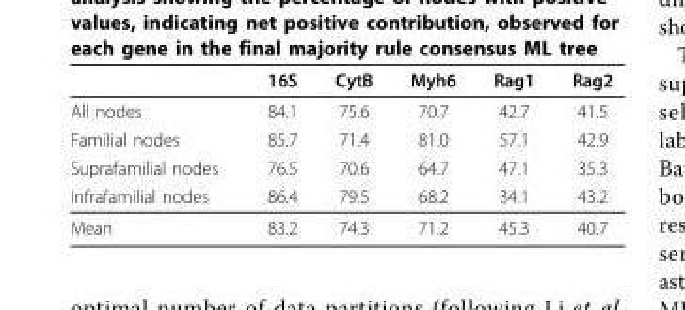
<table><thead><tr><td></td><td>16S</td><td>CytB</td><td>Myh6</td><td>Rag1</td><td>Rag2</td></tr></thead><tbody><tr><td>All nodes</td><td>84.1</td><td>75.6</td><td>70.7</td><td>42.7</td><td>41.5</td></tr><tr><td>Familial nodes</td><td>85.7</td><td>71.4</td><td>81.0</td><td>57.1</td><td>42.9</td></tr><tr><td>Suprafamilial nodes</td><td>76.5</td><td>70.6</td><td>64.7</td><td>47.1</td><td>35.3</td></tr><tr><td>Infrafamilial nodes</td><td>86.4</td><td>79.5</td><td>68.2</td><td>34.1</td><td>43.2</td></tr><tr><td>Mean</td><td>83.2</td><td>74.3</td><td>71.2</td><td>45.3</td><td>40.7</td></tr></tbody></table>